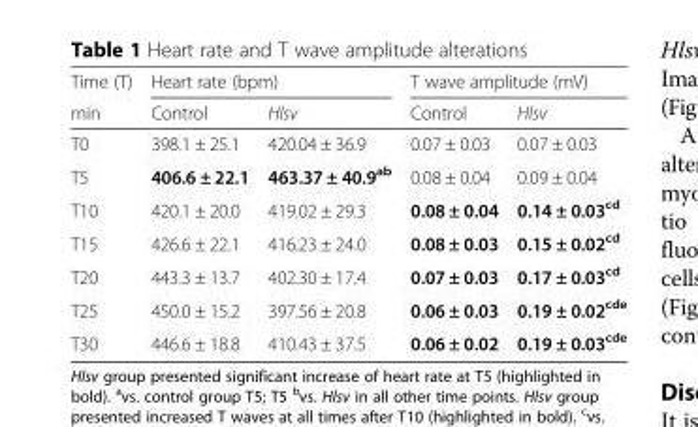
<table><thead><tr><td rowspan="2">Time (T) min</td><td colspan="2">Heart rate (bpm)</td><td colspan="2">T wave amplitude (mV)</td></tr><tr><td>Control</td><td>Hlsv</td><td>Control</td><td>Hlsv</td></tr></thead><tbody><tr><td>T0</td><td>398.1 ± 25.1</td><td>420.04 ± 36.9</td><td>0.07 ± 0.03</td><td>0.07 ± 0.03</td></tr><tr><td>T5</td><td>406.6 ± 22.1</td><td>463.37 ± 40.9<sup>ab</sup></td><td>0.08 ± 0.04</td><td>0.09 ± 0.04</td></tr><tr><td>T10</td><td>420.1 ± 20.0</td><td>419.02 ± 29.3</td><td>0.08 ± 0.04</td><td>0.14 ± 0.03<sup>cd</sup></td></tr><tr><td>T15</td><td>426.6 ± 22.1</td><td>416.23 ± 24.0</td><td>0.08 ± 0.03</td><td>0.15 ± 0.02<sup>cd</sup></td></tr><tr><td>T20</td><td>443.3 ± 13.7</td><td>402.30 ± 17.4</td><td>0.07 ± 0.03</td><td>0.17 ± 0.03<sup>cd</sup></td></tr><tr><td>T25</td><td>450.0 ± 15.2</td><td>397.56 ± 20.8</td><td>0.06 ± 0.03</td><td>0.19 ± 0.02<sup>cde</sup></td></tr><tr><td>T30</td><td>446.6 ± 18.8</td><td>410.43 ± 37.5</td><td>0.06 ± 0.02</td><td>0.19 ± 0.03<sup>cde</sup></td></tr></tbody></table>